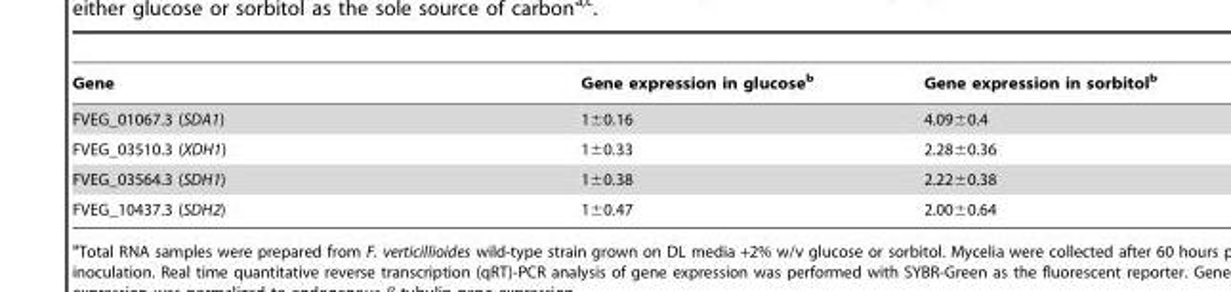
<table><thead><tr><td>Gene</td><td>Gene expression in glucose<sup>b</sup></td><td>Gene expression in sorbitol<sup>b</sup></td></tr></thead><tbody><tr><td>FVEG_01067.3 (SDA1)</td><td>1±0.16</td><td>4.09±0.4</td></tr><tr><td>FVEG_03510.3 (XDH1)</td><td>1±0.33</td><td>2.28±0.36</td></tr><tr><td>FVEG_03564.3 (SDH1)</td><td>1±0.38</td><td>2.22±0.38</td></tr><tr><td>FVEG_10437.3 (SDH2)</td><td>1±0.47</td><td>2.00±0.64</td></tr></tbody></table>